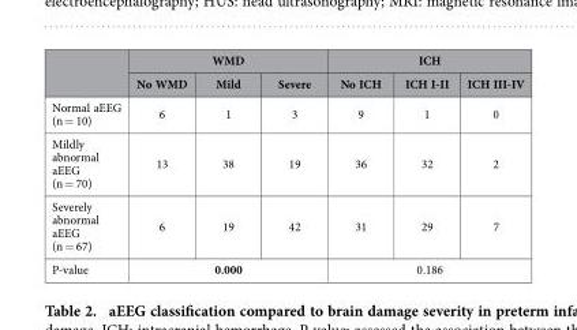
<table><thead><tr><td rowspan="2"></td><td colspan="3">WMD</td><td colspan="3">ICH</td></tr><tr><td>No WMD</td><td>Mild</td><td>Severe</td><td>No ICH</td><td>ICH I-II</td><td>ICH III-IV</td></tr></thead><tbody><tr><td>Normal aEEG (n = 10)</td><td>6</td><td>1</td><td>3</td><td>9</td><td>1</td><td>0</td></tr><tr><td>Mildly abnormal aEEG (n = 70)</td><td>13</td><td>38</td><td>19</td><td>36</td><td>32</td><td>2</td></tr><tr><td>Severely abnormal aEEG (n = 67)</td><td>6</td><td>19</td><td>42</td><td>31</td><td>29</td><td>7</td></tr><tr><td>P-value</td><td colspan="3">0.000</td><td colspan="3">0.186</td></tr></tbody></table>